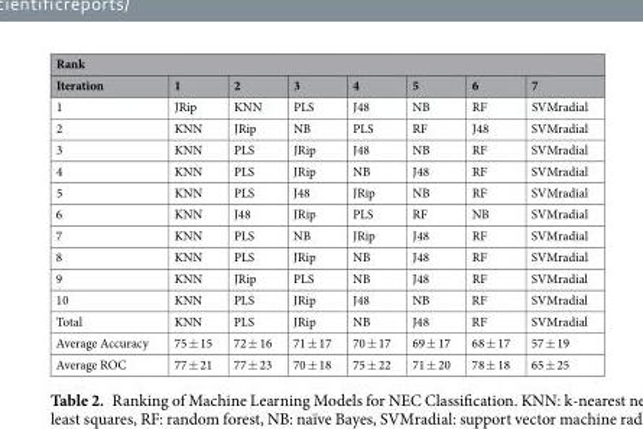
<table><thead><tr><td colspan="8">Rank</td></tr><tr><td>Iteration</td><td>1</td><td>2</td><td>3</td><td>4</td><td>5</td><td>6</td><td>7</td></tr></thead><tbody><tr><td>1</td><td>JRip</td><td>KNN</td><td>PLS</td><td>J48</td><td>NB</td><td>RF</td><td>SVMradial</td></tr><tr><td>2</td><td>KNN</td><td>JRip</td><td>NB</td><td>PLS</td><td>RF</td><td>J48</td><td>SVMradial</td></tr><tr><td>3</td><td>KNN</td><td>PLS</td><td>JRip</td><td>J48</td><td>NB</td><td>RF</td><td>SVMradial</td></tr><tr><td>4</td><td>KNN</td><td>PLS</td><td>JRip</td><td>NB</td><td>J48</td><td>RF</td><td>SVMradial</td></tr><tr><td>5</td><td>KNN</td><td>PLS</td><td>J48</td><td>JRip</td><td>NB</td><td>RF</td><td>SVMradial</td></tr><tr><td>6</td><td>KNN</td><td>J48</td><td>JRip</td><td>PLS</td><td>RF</td><td>NB</td><td>SVMradial</td></tr><tr><td>7</td><td>KNN</td><td>PLS</td><td>NB</td><td>JRip</td><td>J48</td><td>RF</td><td>SVMradial</td></tr><tr><td>8</td><td>KNN</td><td>PLS</td><td>JRip</td><td>NB</td><td>J48</td><td>RF</td><td>SVMradial</td></tr><tr><td>9</td><td>KNN</td><td>JRip</td><td>PLS</td><td>NB</td><td>J48</td><td>RF</td><td>SVMradial</td></tr><tr><td>10</td><td>KNN</td><td>PLS</td><td>JRip</td><td>J48</td><td>NB</td><td>RF</td><td>SVMradial</td></tr><tr><td>Total</td><td>KNN</td><td>PLS</td><td>JRip</td><td>NB</td><td>J48</td><td>RF</td><td>SVMradial</td></tr><tr><td>Average Accuracy</td><td>75 ± 15</td><td>72 ± 16</td><td>71 ± 17</td><td>70 ± 17</td><td>69 ± 17</td><td>68 ± 17</td><td>57 ± 19</td></tr><tr><td>Average ROC</td><td>77 ± 21</td><td>77 ± 23</td><td>70 ± 18</td><td>75 ± 22</td><td>71 ± 20</td><td>78 ± 18</td><td>65 ± 25</td></tr></tbody></table>